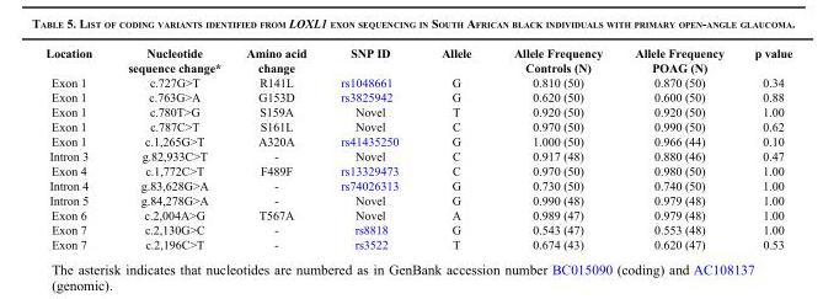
<table><thead><tr><td>Location</td><td>Nucleotide sequence change*</td><td>Amino acid change</td><td>SNP ID</td><td>Allele</td><td>Allele Frequency Controls (N)</td><td>Allele Frequency POAG (N)</td><td>p value</td></tr></thead><tbody><tr><td>Exon 1</td><td>c.727G&gt;T</td><td>R141L</td><td>rs1048661</td><td>G</td><td>0.810 (50)</td><td>0.870 (50)</td><td>0.34</td></tr><tr><td>Exon 1</td><td>c.763G&gt;A</td><td>G153D</td><td>rs3825942</td><td>G</td><td>0.620 (50)</td><td>0.600 (50)</td><td>0.88</td></tr><tr><td>Exon 1</td><td>c.780T&gt;G</td><td>S159A</td><td>Novel</td><td>T</td><td>0.920 (50)</td><td>0.920 (50)</td><td>1.00</td></tr><tr><td>Exon 1</td><td>c.787C&gt;T</td><td>S161L</td><td>Novel</td><td>C</td><td>0.970 (50)</td><td>0.990 (50)</td><td>0.62</td></tr><tr><td>Exon 1</td><td>c.1,265G&gt;T</td><td>A320A</td><td>rs41435250</td><td>G</td><td>1.000 (50)</td><td>0.966 (44)</td><td>0.10</td></tr><tr><td>Intron 3</td><td>g.82,933C&gt;T</td><td>-</td><td>Novel</td><td>C</td><td>0.917 (48)</td><td>0.880 (46)</td><td>0.47</td></tr><tr><td>Exon 4</td><td>c.1,772C&gt;T</td><td>F489F</td><td>rs13329473</td><td>C</td><td>0.970 (50)</td><td>0.980 (50)</td><td>1.00</td></tr><tr><td>Intron 4</td><td>g.83,628G&gt;A</td><td>-</td><td>rs74026313</td><td>G</td><td>0.730 (50)</td><td>0.740 (50)</td><td>1.00</td></tr><tr><td>Intron 5</td><td>g.84,278G&gt;A</td><td>-</td><td>Novel</td><td>G</td><td>0.990 (48)</td><td>0.979 (48)</td><td>1.00</td></tr><tr><td>Exon 6</td><td>c.2,004A&gt;G</td><td>T567A</td><td>Novel</td><td>A</td><td>0.989 (47)</td><td>0.979 (48)</td><td>1.00</td></tr><tr><td>Exon 7</td><td>c.2,130G&gt;C</td><td>-</td><td>rs8818</td><td>G</td><td>0.543 (47)</td><td>0.553 (48)</td><td>1.00</td></tr><tr><td>Exon 7</td><td>c.2,196C&gt;T</td><td>-</td><td>rs3522</td><td>T</td><td>0.674 (43)</td><td>0.620 (47)</td><td>0.53</td></tr></tbody></table>